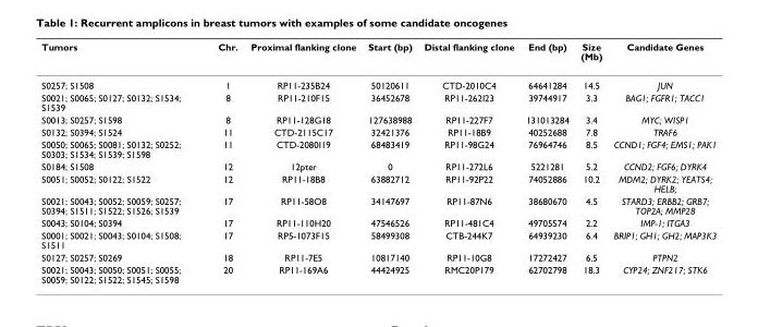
<table><thead><tr><td>Tumors</td><td>Chr.</td><td>Proximal flanking clone</td><td>Start (bp)</td><td>Distal flanking clone</td><td>End (bp)</td><td>Size (Mb)</td><td>Candidate Genes</td></tr></thead><tbody><tr><td>S0257; S1508</td><td>1</td><td>RP11-235B24</td><td>50120611</td><td>CTD-2010C4</td><td>64641284</td><td>14.5</td><td>JUN</td></tr><tr><td>S0021; S0065; S0127; S0132; S1534; S1539</td><td>8</td><td>RP11-210F15</td><td>36452678</td><td>RP11-262I23</td><td>39744917</td><td>3.3</td><td>BAG1; FGFR1; TACC1</td></tr><tr><td>S0013; S0257; S1598</td><td>8</td><td>RP11-128G18</td><td>127638988</td><td>RP11-227F7</td><td>131013284</td><td>3.4</td><td>MYC; WISP1</td></tr><tr><td>S0132; S0394; S1524</td><td>11</td><td>CTD-2115C17</td><td>32421376</td><td>RP11-18B9</td><td>40252688</td><td>7.8</td><td>TRAF6</td></tr><tr><td>S0050; S0065; S0081; S0132; S0252; S0303; S1534; S1539; S1598</td><td>11</td><td>CTD-2080I19</td><td>68483419</td><td>RP11-98G24</td><td>76964746</td><td>8.5</td><td>CCND1; FGF4; EMS1; PAK1</td></tr><tr><td>S0184; S1508</td><td>12</td><td>12pter</td><td>0</td><td>RP11-272L6</td><td>5221281</td><td>5.2</td><td>CCND2; FGF6; DYRK4</td></tr><tr><td>S0051; S0052; S0122; S1522</td><td>12</td><td>RP11-18B8</td><td>63882712</td><td>RP11-92P22</td><td>74052886</td><td>10.2</td><td>MDM2; DYRK2; YEATS4; HELB;</td></tr><tr><td>S0021; S0043; S0052; S0059; S0257; S0394; S1511; S1522; S1526; S1539</td><td>17</td><td>RP11-58O8</td><td>34147697</td><td>RP11-87N6</td><td>38680670</td><td>4.5</td><td>STARD3; ERBB2; GRB7; TOP2A; MMP28</td></tr><tr><td>S0043; S0104; S0394</td><td>17</td><td>RP11-110H20</td><td>47546526</td><td>RP11-481C4</td><td>49705574</td><td>2.2</td><td>IMP-1; ITGA3</td></tr><tr><td>S0001; S0021; S0043; S0104; S1508; S1511</td><td>17</td><td>RP5-1073F15</td><td>58499308</td><td>CTB-244K7</td><td>64939230</td><td>6.4</td><td>BRIP1; GH1; GH2; MAP3K3</td></tr><tr><td>S0127; S0257; S0269</td><td>18</td><td>RP11-7E5</td><td>10817140</td><td>RP11-10G8</td><td>17272427</td><td>6.5</td><td>PTPN2</td></tr><tr><td>S0021; S0043; S0050; S0051; S0055; S0059; S0122; S1522; S1545; S1598</td><td>20</td><td>RP11-169A6</td><td>44424925</td><td>RMC20P179</td><td>62702798</td><td>18.3</td><td>CYP24; ZNF217; STK6</td></tr></tbody></table>